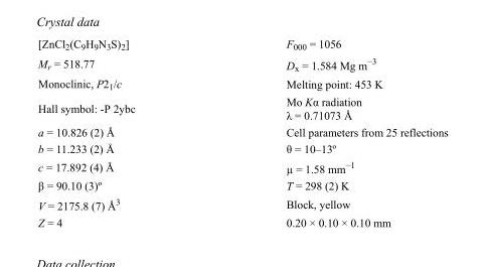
<table><tbody><tr><td>[ZnCl<sub>2</sub>(C<sub>9</sub>H<sub>9</sub>N<sub>3</sub>S)<sub>2</sub>]</td><td>F<sub>000</sub> = 1056</td></tr><tr><td>M<sub>r</sub> = 518.77</td><td>D<sub>x</sub> = 1.584 Mg m<sup>−3</sup></td></tr><tr><td>Monoclinic, P2<sub>1</sub>/c</td><td>Melting point: 453 K</td></tr><tr><td>Hall symbol: -P 2ybc</td><td>Mo Kα radiation λ = 0.71073 Å</td></tr><tr><td>a = 10.826 (2) Å</td><td>Cell parameters from 25 reflections</td></tr><tr><td>b = 11.233 (2) Å</td><td>θ = 10–13º</td></tr><tr><td>c = 17.892 (4) Å</td><td>µ = 1.58 mm<sup>−1</sup></td></tr><tr><td>β = 90.10 (3)º</td><td>T = 298 (2) K</td></tr><tr><td>V = 2175.8 (7) Å<sup>3</sup></td><td>Block, yellow</td></tr><tr><td>Z = 4</td><td>0.20 × 0.10 × 0.10 mm</td></tr></tbody></table>